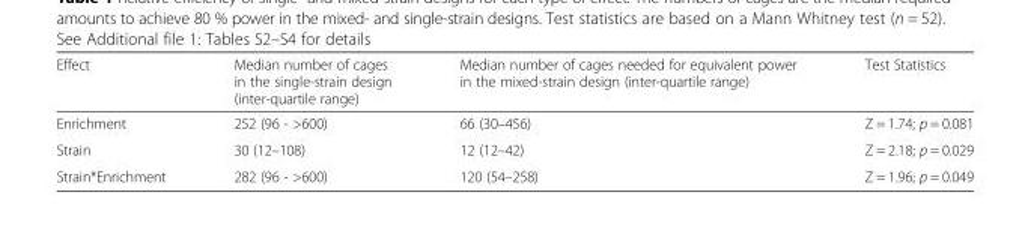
<table><thead><tr><td>Effect</td><td>Median number of cages in the single-strain design (inter-quartile range)</td><td>Median number of cages needed for equivalent power in the mixed-strain design (inter-quartile range)</td><td>Test Statistics</td></tr></thead><tbody><tr><td>Enrichment</td><td>252 (96 - &gt;600)</td><td>66 (30–456)</td><td>Z = 1.74; p = 0.081</td></tr><tr><td>Strain</td><td>30 (12–108)</td><td>12 (12–42)</td><td>Z = 2.18; p = 0.029</td></tr><tr><td>Strain*Enrichment</td><td>282 (96 - &gt;600)</td><td>120 (54–258)</td><td>Z = 1.96; p = 0.049</td></tr></tbody></table>